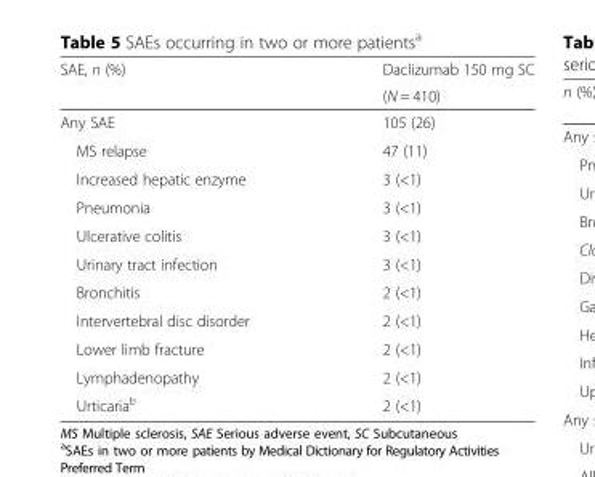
<table><thead><tr><td rowspan="2">SAE, n (%)</td><td rowspan="2">Daclizumab 150 mg SC (N = 410)</td></tr><tr></tr></thead><tbody><tr><td>Any SAE</td><td>105 (26)</td></tr><tr><td>MS relapse</td><td>47 (11)</td></tr><tr><td>Increased hepatic enzyme</td><td>3 (&lt;1)</td></tr><tr><td>Pneumonia</td><td>3 (&lt;1)</td></tr><tr><td>Ulcerative colitis</td><td>3 (&lt;1)</td></tr><tr><td>Urinary tract infection</td><td>3 (&lt;1)</td></tr><tr><td>Bronchitis</td><td>2 (&lt;1)</td></tr><tr><td>Intervertebral disc disorder</td><td>2 (&lt;1)</td></tr><tr><td>Lower limb fracture</td><td>2 (&lt;1)</td></tr><tr><td>Lymphadenopathy</td><td>2 (&lt;1)</td></tr><tr><td>Urticaria<sup>b</sup></td><td>2 (&lt;1)</td></tr></tbody></table>